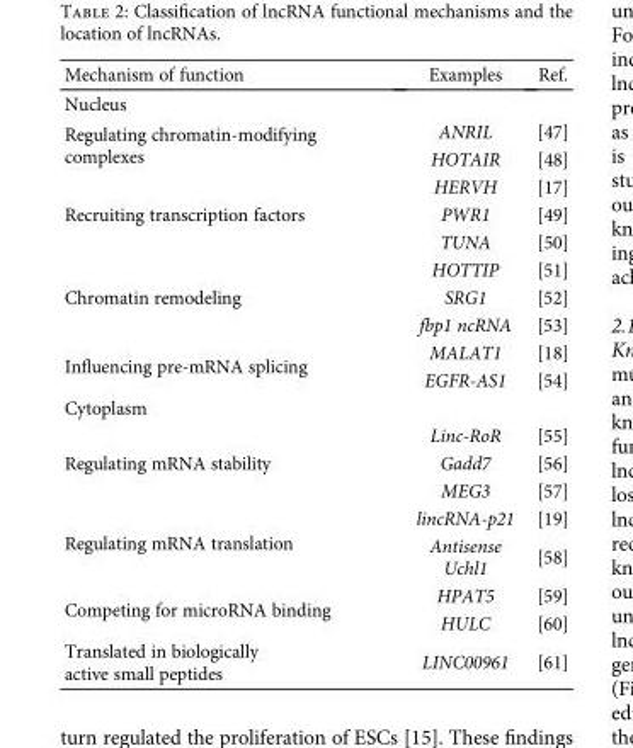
<table><thead><tr><td>Mechanism of function</td><td>Examples</td><td>Ref.</td></tr></thead><tbody><tr><td colspan="3">Nucleus</td></tr><tr><td rowspan="2">Regulating chromatin-modifying complexes</td><td>ANRIL</td><td>[47]</td></tr><tr><td>HOTAIR</td><td>[48]</td></tr><tr><td rowspan="3">Recruiting transcription factors</td><td>HERVH</td><td>[17]</td></tr><tr><td>PWR1</td><td>[49]</td></tr><tr><td>TUNA</td><td>[50]</td></tr><tr><td rowspan="3">Chromatin remodeling</td><td>HOTTIP</td><td>[51]</td></tr><tr><td>SRG1</td><td>[52]</td></tr><tr><td>fbp1 ncRNA</td><td>[53]</td></tr><tr><td rowspan="2">Influencing pre-mRNA splicing</td><td>MALAT1</td><td>[18]</td></tr><tr><td>EGFR-AS1</td><td>[54]</td></tr><tr><td colspan="3">Cytoplasm</td></tr><tr><td rowspan="3">Regulating mRNA stability</td><td>Linc-RoR</td><td>[55]</td></tr><tr><td>Gadd7</td><td>[56]</td></tr><tr><td>MEG3</td><td>[57]</td></tr><tr><td rowspan="2">Regulating mRNA translation</td><td>lincRNA-p21</td><td>[19]</td></tr><tr><td>Antisense Uchl1</td><td>[58]</td></tr><tr><td rowspan="2">Competing for microRNA binding</td><td>HPAT5</td><td>[59]</td></tr><tr><td>HULC</td><td>[60]</td></tr><tr><td>Translated in biologically active small peptides</td><td>LINC00961</td><td>[61]</td></tr></tbody></table>